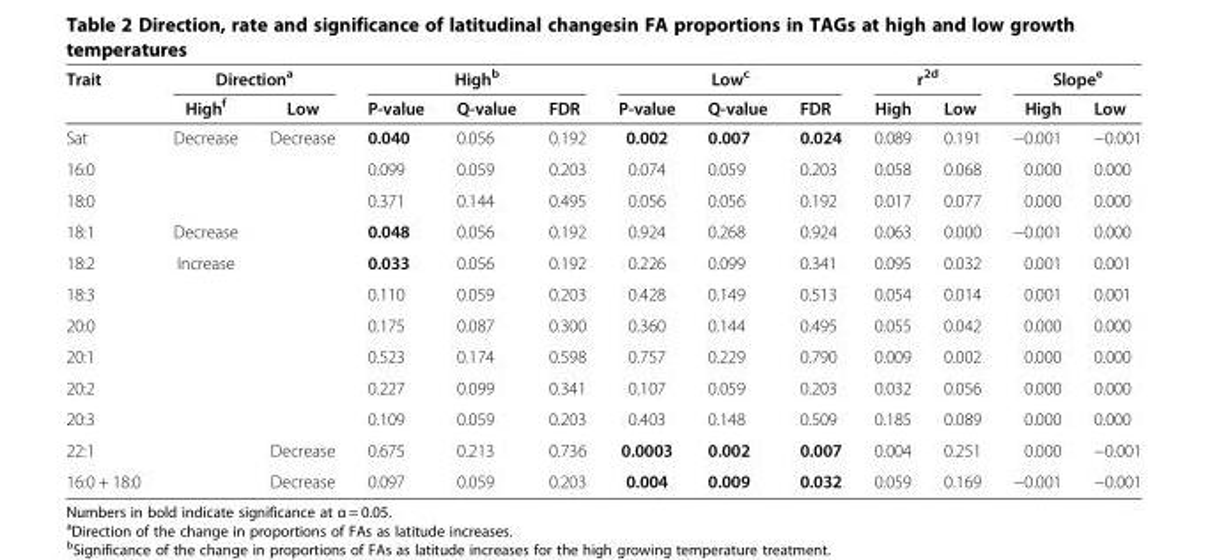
<table><thead><tr><td rowspan="2">Trait</td><td colspan="2">Direction<sup>a</sup></td><td colspan="3">High<sup>b</sup></td><td colspan="3">Low<sup>c</sup></td><td colspan="2">r<sup>2d</sup></td><td colspan="2">Slope<sup>e</sup></td></tr><tr><td>High<sup>f</sup></td><td>Low</td><td>P-value</td><td>Q-value</td><td>FDR</td><td>P-value</td><td>Q-value</td><td>FDR</td><td>High</td><td>Low</td><td>High</td><td>Low</td></tr></thead><tbody><tr><td>Sat</td><td>Decrease</td><td>Decrease</td><td>0.040</td><td>0.056</td><td>0.192</td><td>0.002</td><td>0.007</td><td>0.024</td><td>0.089</td><td>0.191</td><td>−0.001</td><td>−0.001</td></tr><tr><td>16:0</td><td></td><td></td><td>0.099</td><td>0.059</td><td>0.203</td><td>0.074</td><td>0.059</td><td>0.203</td><td>0.058</td><td>0.068</td><td>0.000</td><td>0.000</td></tr><tr><td>18:0</td><td></td><td></td><td>0.371</td><td>0.144</td><td>0.495</td><td>0.056</td><td>0.056</td><td>0.192</td><td>0.017</td><td>0.077</td><td>0.000</td><td>0.000</td></tr><tr><td>18:1</td><td>Decrease</td><td></td><td>0.048</td><td>0.056</td><td>0.192</td><td>0.924</td><td>0.268</td><td>0.924</td><td>0.063</td><td>0.000</td><td>−0.001</td><td>0.000</td></tr><tr><td>18:2</td><td>Increase</td><td></td><td>0.033</td><td>0.056</td><td>0.192</td><td>0.226</td><td>0.099</td><td>0.341</td><td>0.095</td><td>0.032</td><td>0.001</td><td>0.001</td></tr><tr><td>18:3</td><td></td><td></td><td>0.110</td><td>0.059</td><td>0.203</td><td>0.428</td><td>0.149</td><td>0.513</td><td>0.054</td><td>0.014</td><td>0.001</td><td>0.001</td></tr><tr><td>20:0</td><td></td><td></td><td>0.175</td><td>0.087</td><td>0.300</td><td>0.360</td><td>0.144</td><td>0.495</td><td>0.055</td><td>0.042</td><td>0.000</td><td>0.000</td></tr><tr><td>20:1</td><td></td><td></td><td>0.523</td><td>0.174</td><td>0.598</td><td>0.757</td><td>0.229</td><td>0.790</td><td>0.009</td><td>0.002</td><td>0.000</td><td>0.000</td></tr><tr><td>20:2</td><td></td><td></td><td>0.227</td><td>0.099</td><td>0.341</td><td>0.107</td><td>0.059</td><td>0.203</td><td>0.032</td><td>0.056</td><td>0.000</td><td>0.000</td></tr><tr><td>20:3</td><td></td><td></td><td>0.109</td><td>0.059</td><td>0.203</td><td>0.403</td><td>0.148</td><td>0.509</td><td>0.185</td><td>0.089</td><td>0.000</td><td>0.000</td></tr><tr><td>22:1</td><td></td><td>Decrease</td><td>0.675</td><td>0.213</td><td>0.736</td><td>0.0003</td><td>0.002</td><td>0.007</td><td>0.004</td><td>0.251</td><td>0.000</td><td>−0.001</td></tr><tr><td>16:0 + 18:0</td><td></td><td>Decrease</td><td>0.097</td><td>0.059</td><td>0.203</td><td>0.004</td><td>0.009</td><td>0.032</td><td>0.059</td><td>0.169</td><td>−0.001</td><td>−0.001</td></tr></tbody></table>